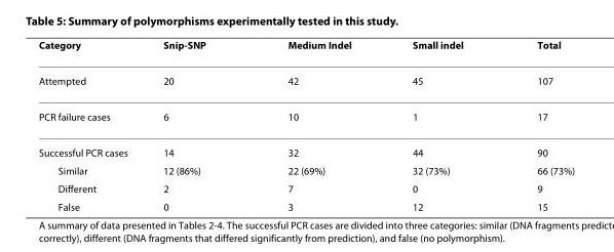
<table><thead><tr><td>Category</td><td>Snip-SNP</td><td>Medium Indel</td><td>Small indel</td><td>Total</td></tr></thead><tbody><tr><td>Attempted</td><td>20</td><td>42</td><td>45</td><td>107</td></tr><tr><td>PCR failure cases</td><td>6</td><td>10</td><td>1</td><td>17</td></tr><tr><td>Successful PCR cases</td><td>14</td><td>32</td><td>44</td><td>90</td></tr><tr><td>Similar</td><td>12 (86%)</td><td>22 (69%)</td><td>32 (73%)</td><td>66 (73%)</td></tr><tr><td>Different</td><td>2</td><td>7</td><td>0</td><td>9</td></tr><tr><td>False</td><td>0</td><td>3</td><td>12</td><td>15</td></tr></tbody></table>